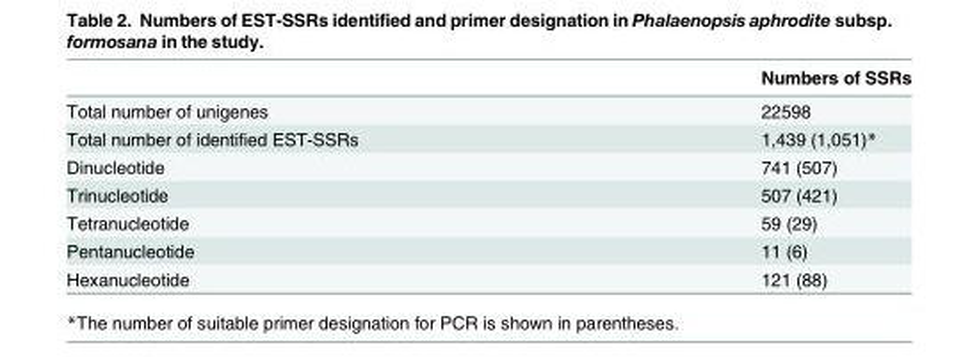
<table><thead><tr><td></td><td>Numbers of SSRs</td></tr></thead><tbody><tr><td>Total number of unigenes</td><td>22598</td></tr><tr><td>Total number of identified EST-SSRs</td><td>1,439 (1,051)*</td></tr><tr><td>Dinucleotide</td><td>741 (507)</td></tr><tr><td>Trinucleotide</td><td>507 (421)</td></tr><tr><td>Tetranucleotide</td><td>59 (29)</td></tr><tr><td>Pentanucleotide</td><td>11 (6)</td></tr><tr><td>Hexanucleotide</td><td>121 (88)</td></tr></tbody></table>